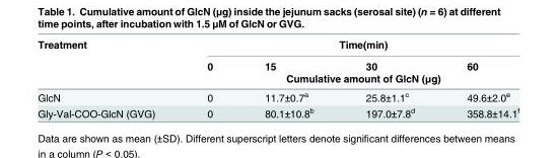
<table><thead><tr><td rowspan="3">Treatment</td><td colspan="4">Time(min)</td></tr><tr><td>0</td><td>15</td><td>30</td><td>60</td></tr><tr><td colspan="4">Cumulative amount of GlcN (μg)</td></tr></thead><tbody><tr><td>GlcN</td><td>0</td><td>11.7±0.7<sup>a</sup></td><td>25.8±1.1<sup>c</sup></td><td>49.6±2.0<sup>e</sup></td></tr><tr><td>Gly-Val-COO-GlcN (GVG)</td><td>0</td><td>80.1±10.8<sup>b</sup></td><td>197.0±7.8<sup>d</sup></td><td>358.8±14.1<sup>f</sup></td></tr></tbody></table>